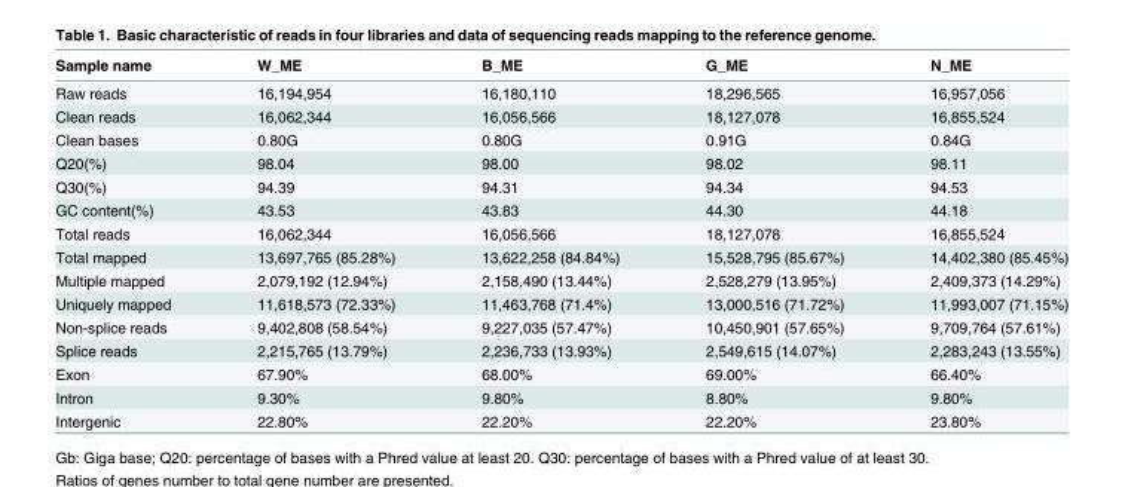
<table><thead><tr><td>Sample name</td><td>W_ME</td><td>B_ME</td><td>G_ME</td><td>N_ME</td></tr></thead><tbody><tr><td>Raw reads</td><td>16,194,954</td><td>16,180,110</td><td>18,296,565</td><td>16,957,056</td></tr><tr><td>Clean reads</td><td>16,062,344</td><td>16,056,566</td><td>18,127,078</td><td>16,855,524</td></tr><tr><td>Clean bases</td><td>0.80G</td><td>0.80G</td><td>0.91G</td><td>0.84G</td></tr><tr><td>Q20(%)</td><td>98.04</td><td>98.00</td><td>98.02</td><td>98.11</td></tr><tr><td>Q30(%)</td><td>94.39</td><td>94.31</td><td>94.34</td><td>94.53</td></tr><tr><td>GC content(%)</td><td>43.53</td><td>43.83</td><td>44.30</td><td>44.18</td></tr><tr><td>Total reads</td><td>16,062,344</td><td>16,056,566</td><td>18,127,078</td><td>16,855,524</td></tr><tr><td>Total mapped</td><td>13,697,765 (85.28%)</td><td>13,622,258 (84.84%)</td><td>15,528,795 (85.67%)</td><td>14,402,380 (85.45%)</td></tr><tr><td>Multiple mapped</td><td>2,079,192 (12.94%)</td><td>2,158,490 (13.44%)</td><td>2,528,279 (13.95%)</td><td>2,409,373 (14.29%)</td></tr><tr><td>Uniquely mapped</td><td>11,618,573 (72.33%)</td><td>11,463,768 (71.4%)</td><td>13,000,516 (71.72%)</td><td>11,993,007 (71.15%)</td></tr><tr><td>Non-splice reads</td><td>9,402,808 (58.54%)</td><td>9,227,035 (57.47%)</td><td>10,450,901 (57.65%)</td><td>9,709,764 (57.61%)</td></tr><tr><td>Splice reads</td><td>2,215,765 (13.79%)</td><td>2,236,733 (13.93%)</td><td>2,549,615 (14.07%)</td><td>2,283,243 (13.55%)</td></tr><tr><td>Exon</td><td>67.90%</td><td>68.00%</td><td>69.00%</td><td>66.40%</td></tr><tr><td>Intron</td><td>9.30%</td><td>9.80%</td><td>8.80%</td><td>9.80%</td></tr><tr><td>Intergenic</td><td>22.80%</td><td>22.20%</td><td>22.20%</td><td>23.80%</td></tr></tbody></table>